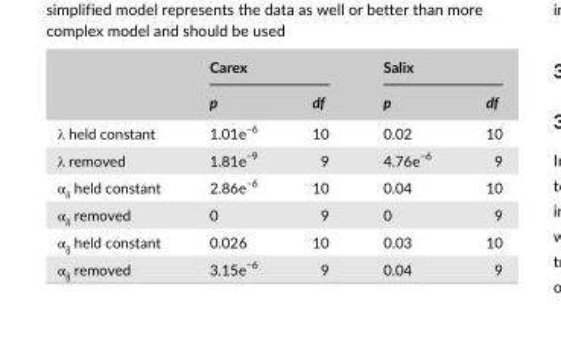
<table><thead><tr><td rowspan="2"></td><td colspan="2">Carex</td><td colspan="2">Salix</td></tr><tr><td>p</td><td>df</td><td>p</td><td>df</td></tr></thead><tbody><tr><td>λ held constant</td><td>1.01e<sup>−6</sup></td><td>10</td><td>0.02</td><td>10</td></tr><tr><td>λ removed</td><td>1.81e<sup>−9</sup></td><td>9</td><td>4.76e<sup>−6</sup></td><td>9</td></tr><tr><td>α<sub>ii</sub> held constant</td><td>2.86e<sup>−6</sup></td><td>10</td><td>0.04</td><td>10</td></tr><tr><td>α<sub>ii</sub> removed</td><td>0</td><td>9</td><td>0</td><td>9</td></tr><tr><td>α<sub>ij</sub> held constant</td><td>0.026</td><td>10</td><td>0.03</td><td>10</td></tr><tr><td>α<sub>ij</sub> removed</td><td>3.15e<sup>−6</sup></td><td>9</td><td>0.04</td><td>9</td></tr></tbody></table>